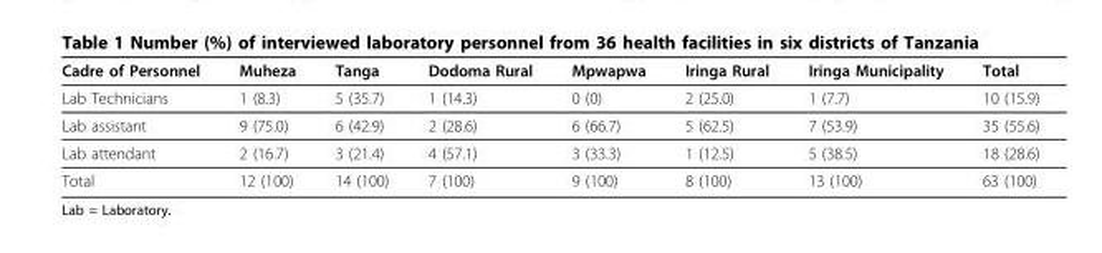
<table><thead><tr><td>Cadre of Personnel</td><td>Muheza</td><td>Tanga</td><td>Dodoma Rural</td><td>Mpwapwa</td><td>Iringa Rural</td><td>Iringa Municipality</td><td>Total</td></tr></thead><tbody><tr><td>Lab Technicians</td><td>1 (8.3)</td><td>5 (35.7)</td><td>1 (14.3)</td><td>0 (0)</td><td>2 (25.0)</td><td>1 (7.7)</td><td>10 (15.9)</td></tr><tr><td>Lab assistant</td><td>9 (75.0)</td><td>6 (42.9)</td><td>2 (28.6)</td><td>6 (66.7)</td><td>5 (62.5)</td><td>7 (53.9)</td><td>35 (55.6)</td></tr><tr><td>Lab attendant</td><td>2 (16.7)</td><td>3 (21.4)</td><td>4 (57.1)</td><td>3 (33.3)</td><td>1 (12.5)</td><td>5 (38.5)</td><td>18 (28.6)</td></tr><tr><td>Total</td><td>12 (100)</td><td>14 (100)</td><td>7 (100)</td><td>9 (100)</td><td>8 (100)</td><td>13 (100)</td><td>63 (100)</td></tr></tbody></table>